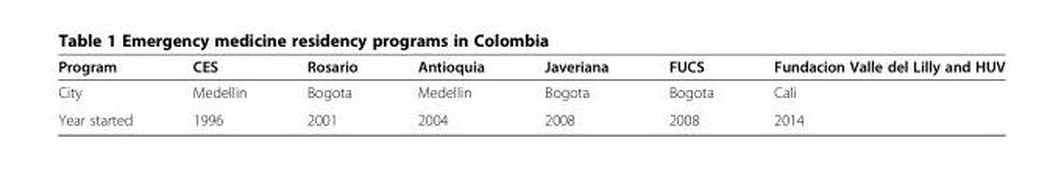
<table><thead><tr><td>Program</td><td>CES</td><td>Rosario</td><td>Antioquia</td><td>Javeriana</td><td>FUCS</td><td>Fundacion Valle del Lilly and HUV</td></tr></thead><tbody><tr><td>City</td><td>Medellin</td><td>Bogota</td><td>Medellin</td><td>Bogota</td><td>Bogota</td><td>Cali</td></tr><tr><td>Year started</td><td>1996</td><td>2001</td><td>2004</td><td>2008</td><td>2008</td><td>2014</td></tr></tbody></table>